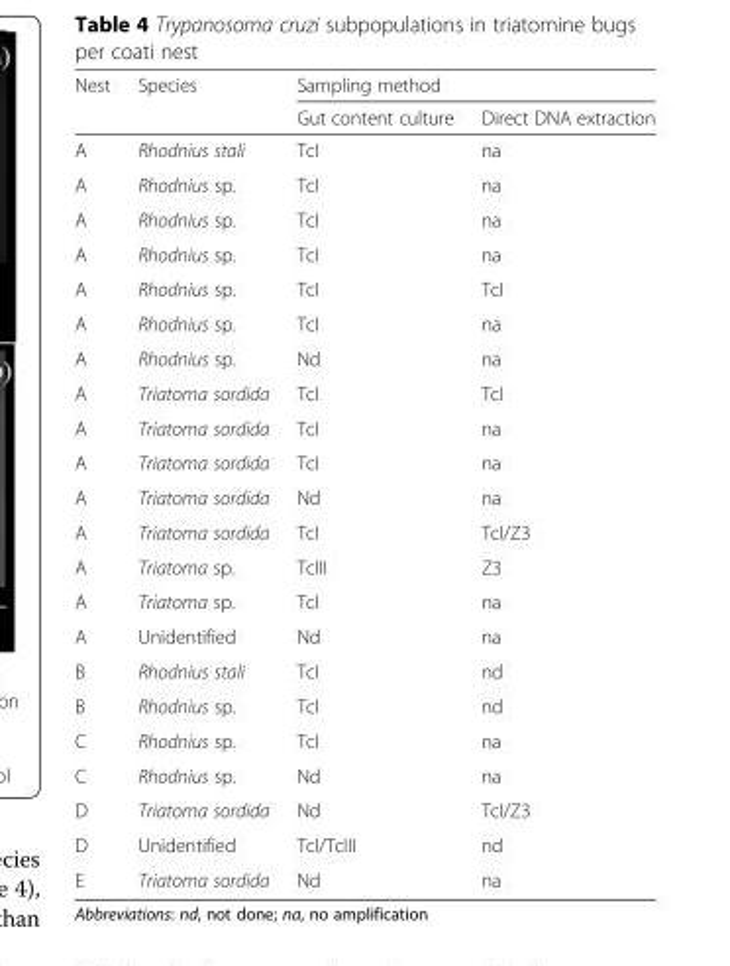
<table><thead><tr><td rowspan="2">Nest</td><td rowspan="2">Species</td><td colspan="2">Sampling method</td></tr><tr><td>Gut content culture</td><td>Direct DNA extraction</td></tr></thead><tbody><tr><td>A</td><td>Rhodnius stali</td><td>TcI</td><td>na</td></tr><tr><td>A</td><td>Rhodnius sp.</td><td>TcI</td><td>na</td></tr><tr><td>A</td><td>Rhodnius sp.</td><td>TcI</td><td>na</td></tr><tr><td>A</td><td>Rhodnius sp.</td><td>TcI</td><td>na</td></tr><tr><td>A</td><td>Rhodnius sp.</td><td>TcI</td><td>TcI</td></tr><tr><td>A</td><td>Rhodnius sp.</td><td>TcI</td><td>na</td></tr><tr><td>A</td><td>Rhodnius sp.</td><td>Nd</td><td>na</td></tr><tr><td>A</td><td>Triatoma sordida</td><td>TcI</td><td>TcI</td></tr><tr><td>A</td><td>Triatoma sordida</td><td>TcI</td><td>na</td></tr><tr><td>A</td><td>Triatoma sordida</td><td>TcI</td><td>na</td></tr><tr><td>A</td><td>Triatoma sordida</td><td>Nd</td><td>na</td></tr><tr><td>A</td><td>Triatoma sordida</td><td>TcI</td><td>TcI/Z3</td></tr><tr><td>A</td><td>Triatoma sp.</td><td>TcIII</td><td>Z3</td></tr><tr><td>A</td><td>Triatoma sp.</td><td>TcI</td><td>na</td></tr><tr><td>A</td><td>Unidentified</td><td>Nd</td><td>na</td></tr><tr><td>B</td><td>Rhodnius stali</td><td>TcI</td><td>nd</td></tr><tr><td>B</td><td>Rhodnius sp.</td><td>TcI</td><td>nd</td></tr><tr><td>C</td><td>Rhodnius sp.</td><td>TcI</td><td>na</td></tr><tr><td>C</td><td>Rhodnius sp.</td><td>Nd</td><td>na</td></tr><tr><td>D</td><td>Triatoma sordida</td><td>Nd</td><td>TcI/Z3</td></tr><tr><td>D</td><td>Unidentified</td><td>TcI/TcIII</td><td>nd</td></tr><tr><td>E</td><td>Triatoma sordida</td><td>Nd</td><td>na</td></tr></tbody></table>